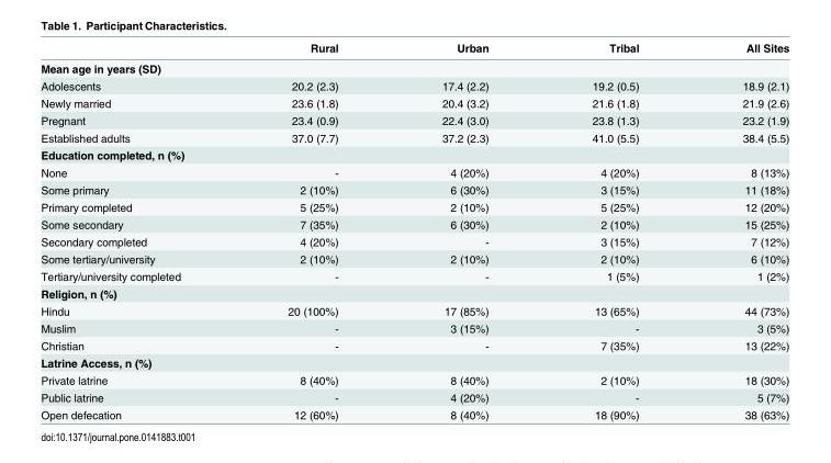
<table><thead><tr><td></td><td>Rural</td><td>Urban</td><td>Tribal</td><td>All Sites</td></tr></thead><tbody><tr><td colspan="5">Mean age in years (SD)</td></tr><tr><td>Adolescents</td><td>20.2 (2.3)</td><td>17.4 (2.2)</td><td>19.2 (0.5)</td><td>18.9 (2.1)</td></tr><tr><td>Newly married</td><td>23.6 (1.8)</td><td>20.4 (3.2)</td><td>21.6 (1.8)</td><td>21.9 (2.6)</td></tr><tr><td>Pregnant</td><td>23.4 (0.9)</td><td>22.4 (3.0)</td><td>23.8 (1.3)</td><td>23.2 (1.9)</td></tr><tr><td>Established adults</td><td>37.0 (7.7)</td><td>37.2 (2.3)</td><td>41.0 (5.5)</td><td>38.4 (5.5)</td></tr><tr><td colspan="5">Education completed, n (%)</td></tr><tr><td>None</td><td>-</td><td>4 (20%)</td><td>4 (20%)</td><td>8 (13%)</td></tr><tr><td>Some primary</td><td>2 (10%)</td><td>6 (30%)</td><td>3 (15%)</td><td>11 (18%)</td></tr><tr><td>Primary completed</td><td>5 (25%)</td><td>2 (10%)</td><td>5 (25%)</td><td>12 (20%)</td></tr><tr><td>Some secondary</td><td>7 (35%)</td><td>6 (30%)</td><td>2 (10%)</td><td>15 (25%)</td></tr><tr><td>Secondary completed</td><td>4 (20%)</td><td>-</td><td>3 (15%)</td><td>7 (12%)</td></tr><tr><td>Some tertiary/university</td><td>2 (10%)</td><td>2 (10%)</td><td>2 (10%)</td><td>6 (10%)</td></tr><tr><td>Tertiary/university completed</td><td>-</td><td>-</td><td>1 (5%)</td><td>1 (2%)</td></tr><tr><td colspan="5">Religion, n (%)</td></tr><tr><td>Hindu</td><td>20 (100%)</td><td>17 (85%)</td><td>13 (65%)</td><td>44 (73%)</td></tr><tr><td>Muslim</td><td>-</td><td>3 (15%)</td><td>-</td><td>3 (5%)</td></tr><tr><td>Christian</td><td>-</td><td>-</td><td>7 (35%)</td><td>13 (22%)</td></tr><tr><td colspan="5">Latrine Access, n (%)</td></tr><tr><td>Private latrine</td><td>8 (40%)</td><td>8 (40%)</td><td>2 (10%)</td><td>18 (30%)</td></tr><tr><td>Public latrine</td><td>-</td><td>4 (20%)</td><td>-</td><td>5 (7%)</td></tr><tr><td>Open defecation</td><td>12 (60%)</td><td>8 (40%)</td><td>18 (90%)</td><td>38 (63%)</td></tr></tbody></table>